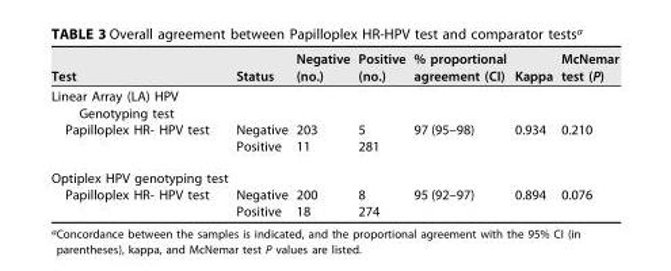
<table><thead><tr><td>Test</td><td>Status</td><td>Negative (no.)</td><td>Positive (no.)</td><td>% proportional agreement (CI)</td><td>Kappa</td><td>McNemar test (P)</td></tr></thead><tbody><tr><td colspan="7">Linear Array (LA) HPV Genotyping test</td></tr><tr><td rowspan="2">Papilloplex HR- HPV test</td><td>Negative</td><td>203</td><td>5</td><td>97 (95–98)</td><td>0.934</td><td>0.210</td></tr><tr><td>Positive</td><td>11</td><td>281</td><td></td><td></td><td></td></tr><tr><td colspan="7">Optiplex HPV genotyping test</td></tr><tr><td rowspan="2">Papilloplex HR- HPV test</td><td>Negative</td><td>200</td><td>8</td><td>95 (92–97)</td><td>0.894</td><td>0.076</td></tr><tr><td>Positive</td><td>18</td><td>274</td><td></td><td></td><td></td></tr></tbody></table>